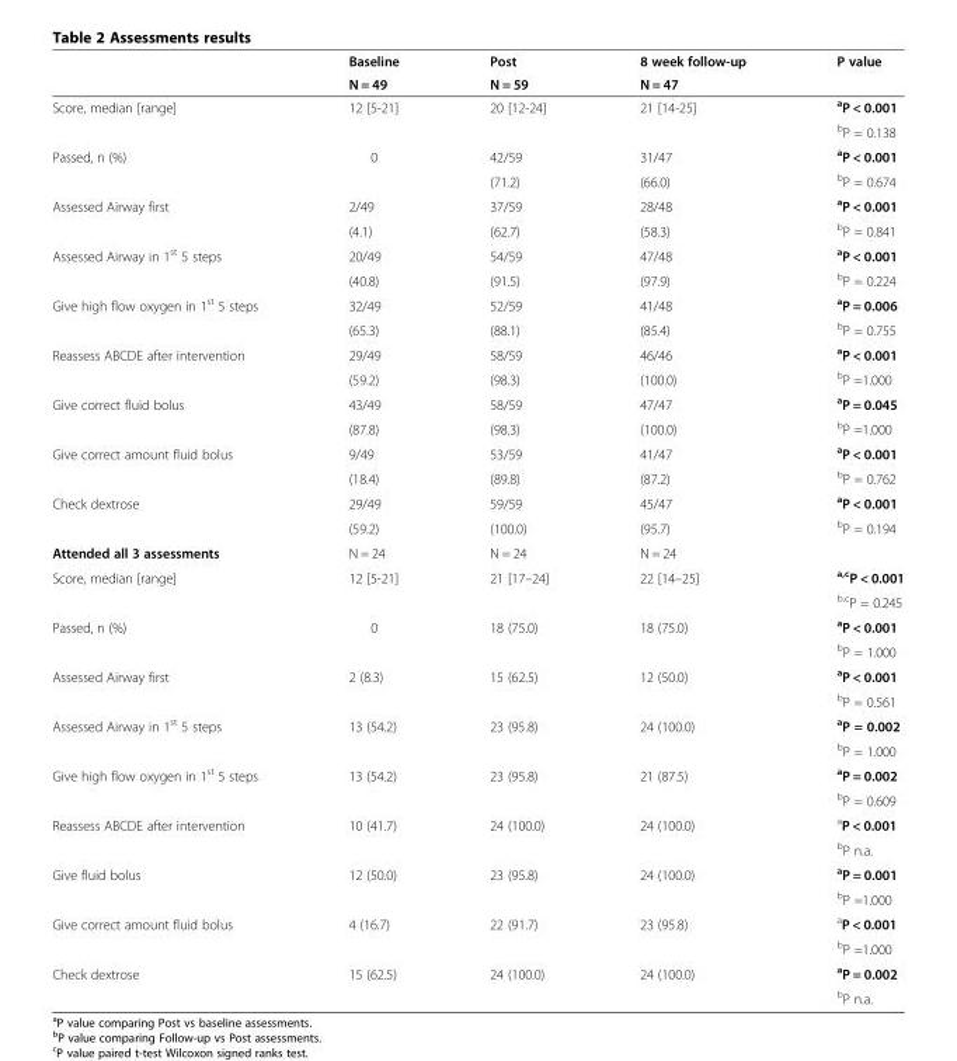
<table><thead><tr><td rowspan="2"></td><td rowspan="2">Baseline N = 49</td><td rowspan="2">Post N = 59</td><td rowspan="2">8 week follow-up N = 47</td><td rowspan="2">P value</td></tr><tr></tr></thead><tbody><tr><td rowspan="2">Score, median [range]</td><td rowspan="2">12 [5-21]</td><td rowspan="2">20 [12-24]</td><td rowspan="2">21 [14-25]</td><td><sup>a</sup>P &lt; 0.001</td></tr><tr><td><sup>b</sup>P = 0.138</td></tr><tr><td rowspan="2">Passed, n (%)</td><td rowspan="2">0</td><td>42/59</td><td>31/47</td><td><sup>a</sup>P &lt; 0.001</td></tr><tr><td>(71.2)</td><td>(66.0)</td><td><sup>b</sup>P = 0.674</td></tr><tr><td rowspan="2">Assessed Airway first</td><td>2/49</td><td>37/59</td><td>28/48</td><td><sup>a</sup>P &lt; 0.001</td></tr><tr><td>(4.1)</td><td>(62.7)</td><td>(58.3)</td><td><sup>b</sup>P = 0.841</td></tr><tr><td rowspan="2">Assessed Airway in 1<sup>st</sup> 5 steps</td><td>20/49</td><td>54/59</td><td>47/48</td><td><sup>a</sup>P &lt; 0.001</td></tr><tr><td>(40.8)</td><td>(91.5)</td><td>(97.9)</td><td><sup>b</sup>P = 0.224</td></tr><tr><td rowspan="2">Give high flow oxygen in 1<sup>st</sup> 5 steps</td><td>32/49</td><td>52/59</td><td>41/48</td><td><sup>a</sup>P = 0.006</td></tr><tr><td>(65.3)</td><td>(88.1)</td><td>(85.4)</td><td><sup>b</sup>P = 0.755</td></tr><tr><td rowspan="2">Reassess ABCDE after intervention</td><td>29/49</td><td>58/59</td><td>46/46</td><td><sup>a</sup>P &lt; 0.001</td></tr><tr><td>(59.2)</td><td>(98.3)</td><td>(100.0)</td><td><sup>b</sup>P =1.000</td></tr><tr><td rowspan="2">Give correct fluid bolus</td><td>43/49</td><td>58/59</td><td>47/47</td><td><sup>a</sup>P = 0.045</td></tr><tr><td>(87.8)</td><td>(98.3)</td><td>(100.0)</td><td><sup>b</sup>P =1.000</td></tr><tr><td rowspan="2">Give correct amount fluid bolus</td><td>9/49</td><td>53/59</td><td>41/47</td><td><sup>a</sup>P &lt; 0.001</td></tr><tr><td>(18.4)</td><td>(89.8)</td><td>(87.2)</td><td><sup>b</sup>P = 0.762</td></tr><tr><td rowspan="2">Check dextrose</td><td>29/49</td><td>59/59</td><td>45/47</td><td><sup>a</sup>P &lt; 0.001</td></tr><tr><td>(59.2)</td><td>(100.0)</td><td>(95.7)</td><td><sup>b</sup>P = 0.194</td></tr><tr><td>Attended all 3 assessments</td><td>N = 24</td><td>N = 24</td><td>N = 24</td><td></td></tr><tr><td rowspan="2">Score, median [range]</td><td rowspan="2">12 [5-21]</td><td rowspan="2">21 [17–24]</td><td rowspan="2">22 [14–25]</td><td><sup>a,c</sup>P &lt; 0.001</td></tr><tr><td><sup>b,c</sup>P = 0.245</td></tr><tr><td rowspan="2">Passed, n (%)</td><td rowspan="2">0</td><td rowspan="2">18 (75.0)</td><td rowspan="2">18 (75.0)</td><td><sup>a</sup>P &lt; 0.001</td></tr><tr><td><sup>b</sup>P = 1.000</td></tr><tr><td rowspan="2">Assessed Airway first</td><td rowspan="2">2 (8.3)</td><td rowspan="2">15 (62.5)</td><td rowspan="2">12 (50.0)</td><td><sup>a</sup>P &lt; 0.001</td></tr><tr><td><sup>b</sup>P = 0.561</td></tr><tr><td rowspan="2">Assessed Airway in 1<sup>st</sup> 5 steps</td><td rowspan="2">13 (54.2)</td><td rowspan="2">23 (95.8)</td><td rowspan="2">24 (100.0)</td><td><sup>a</sup>P = 0.002</td></tr><tr><td><sup>b</sup>P = 1.000</td></tr><tr><td rowspan="2">Give high flow oxygen in 1<sup>st</sup> 5 steps</td><td rowspan="2">13 (54.2)</td><td rowspan="2">23 (95.8)</td><td rowspan="2">21 (87.5)</td><td><sup>a</sup>P = 0.002</td></tr><tr><td><sup>b</sup>P = 0.609</td></tr><tr><td rowspan="2">Reassess ABCDE after intervention</td><td rowspan="2">10 (41.7)</td><td rowspan="2">24 (100.0)</td><td rowspan="2">24 (100.0)</td><td><sup>a</sup>P &lt; 0.001</td></tr><tr><td><sup>b</sup>P n.a.</td></tr><tr><td rowspan="2">Give fluid bolus</td><td rowspan="2">12 (50.0)</td><td rowspan="2">23 (95.8)</td><td rowspan="2">24 (100.0)</td><td><sup>a</sup>P = 0.001</td></tr><tr><td><sup>b</sup>P =1.000</td></tr><tr><td rowspan="2">Give correct amount fluid bolus</td><td rowspan="2">4 (16.7)</td><td rowspan="2">22 (91.7)</td><td rowspan="2">23 (95.8)</td><td><sup>a</sup>P &lt; 0.001</td></tr><tr><td><sup>b</sup>P =1.000</td></tr><tr><td rowspan="2">Check dextrose</td><td rowspan="2">15 (62.5)</td><td rowspan="2">24 (100.0)</td><td rowspan="2">24 (100.0)</td><td><sup>a</sup>P = 0.002</td></tr><tr><td><sup>b</sup>P n.a.</td></tr></tbody></table>